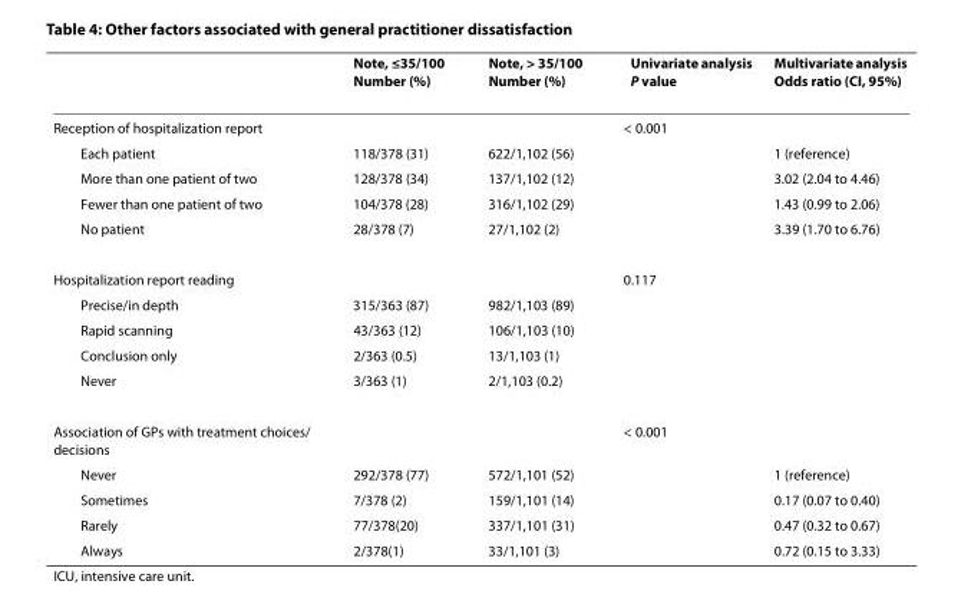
<table><thead><tr><td></td><td>Note, ≤35/100 Number (%)</td><td>Note, &gt; 35/100 Number (%)</td><td>Univariate analysis P value</td><td>Multivariate analysis Odds ratio (CI, 95%)</td></tr></thead><tbody><tr><td>Reception of hospitalization report</td><td></td><td></td><td>&lt; 0.001</td><td></td></tr><tr><td>Each patient</td><td>118/378 (31)</td><td>622/1,102 (56)</td><td></td><td>1 (reference)</td></tr><tr><td>More than one patient of two</td><td>128/378 (34)</td><td>137/1,102 (12)</td><td></td><td>3.02 (2.04 to 4.46)</td></tr><tr><td>Fewer than one patient of two</td><td>104/378 (28)</td><td>316/1,102 (29)</td><td></td><td>1.43 (0.99 to 2.06)</td></tr><tr><td>No patient</td><td>28/378 (7)</td><td>27/1,102 (2)</td><td></td><td>3.39 (1.70 to 6.76)</td></tr><tr><td>Hospitalization report reading</td><td></td><td></td><td>0.117</td><td></td></tr><tr><td>Precise/in depth</td><td>315/363 (87)</td><td>982/1,103 (89)</td><td></td><td></td></tr><tr><td>Rapid scanning</td><td>43/363 (12)</td><td>106/1,103 (10)</td><td></td><td></td></tr><tr><td>Conclusion only</td><td>2/363 (0.5)</td><td>13/1,103 (1)</td><td></td><td></td></tr><tr><td>Never</td><td>3/363 (1)</td><td>2/1,103 (0.2)</td><td></td><td></td></tr><tr><td>Association of GPs with treatment choices/ decisions</td><td></td><td></td><td>&lt; 0.001</td><td></td></tr><tr><td>Never</td><td>292/378 (77)</td><td>572/1,101 (52)</td><td></td><td>1 (reference)</td></tr><tr><td>Sometimes</td><td>7/378 (2)</td><td>159/1,101 (14)</td><td></td><td>0.17 (0.07 to 0.40)</td></tr><tr><td>Rarely</td><td>77/378(20)</td><td>337/1,101 (31)</td><td></td><td>0.47 (0.32 to 0.67)</td></tr><tr><td>Always</td><td>2/378(1)</td><td>33/1,101 (3)</td><td></td><td>0.72 (0.15 to 3.33)</td></tr></tbody></table>